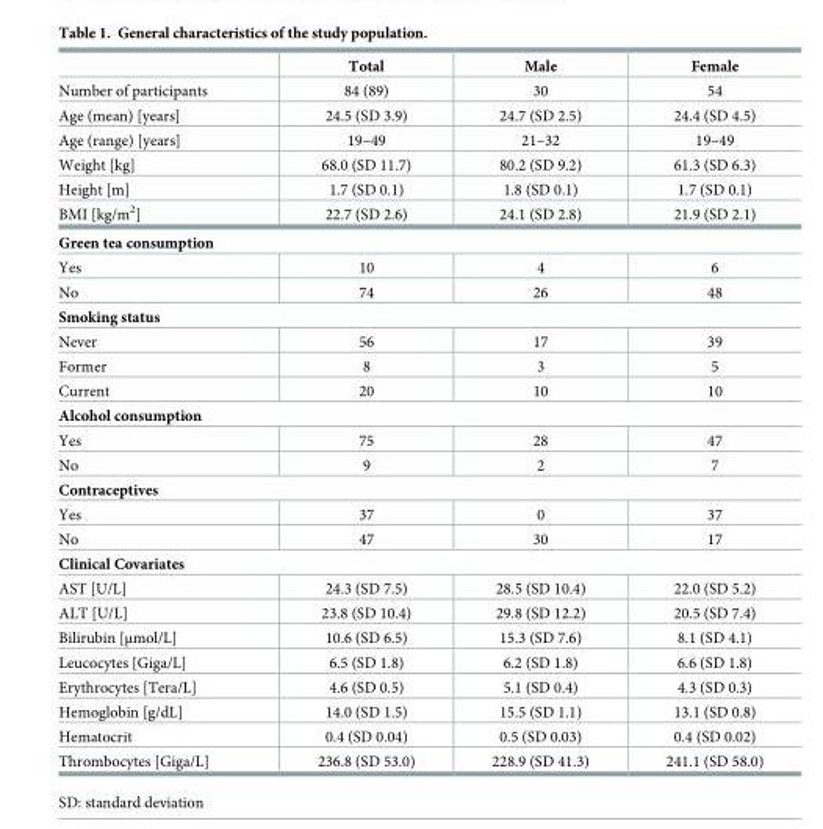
<table><thead><tr><td></td><td>Total</td><td>Male</td><td>Female</td></tr></thead><tbody><tr><td>Number of participants</td><td>84 (89)</td><td>30</td><td>54</td></tr><tr><td>Age (mean) [years]</td><td>24.5 (SD 3.9)</td><td>24.7 (SD 2.5)</td><td>24.4 (SD 4.5)</td></tr><tr><td>Age (range) [years]</td><td>19–49</td><td>21–32</td><td>19–49</td></tr><tr><td>Weight [kg]</td><td>68.0 (SD 11.7)</td><td>80.2 (SD 9.2)</td><td>61.3 (SD 6.3)</td></tr><tr><td>Height [m]</td><td>1.7 (SD 0.1)</td><td>1.8 (SD 0.1)</td><td>1.7 (SD 0.1)</td></tr><tr><td>BMI [kg/m<sup>2</sup>]</td><td>22.7 (SD 2.6)</td><td>24.1 (SD 2.8)</td><td>21.9 (SD 2.1)</td></tr><tr><td colspan="4">Green tea consumption</td></tr><tr><td>Yes</td><td>10</td><td>4</td><td>6</td></tr><tr><td>No</td><td>74</td><td>26</td><td>48</td></tr><tr><td colspan="4">Smoking status</td></tr><tr><td>Never</td><td>56</td><td>17</td><td>39</td></tr><tr><td>Former</td><td>8</td><td>3</td><td>5</td></tr><tr><td>Current</td><td>20</td><td>10</td><td>10</td></tr><tr><td colspan="4">Alcohol consumption</td></tr><tr><td>Yes</td><td>75</td><td>28</td><td>47</td></tr><tr><td>No</td><td>9</td><td>2</td><td>7</td></tr><tr><td colspan="4">Contraceptives</td></tr><tr><td>Yes</td><td>37</td><td>0</td><td>37</td></tr><tr><td>No</td><td>47</td><td>30</td><td>17</td></tr><tr><td colspan="4">Clinical Covariates</td></tr><tr><td>AST [U/L]</td><td>24.3 (SD 7.5)</td><td>28.5 (SD 10.4)</td><td>22.0 (SD 5.2)</td></tr><tr><td>ALT [U/L]</td><td>23.8 (SD 10.4)</td><td>29.8 (SD 12.2)</td><td>20.5 (SD 7.4)</td></tr><tr><td>Bilirubin [μmol/L]</td><td>10.6 (SD 6.5)</td><td>15.3 (SD 7.6)</td><td>8.1 (SD 4.1)</td></tr><tr><td>Leucocytes [Giga/L]</td><td>6.5 (SD 1.8)</td><td>6.2 (SD 1.8)</td><td>6.6 (SD 1.8)</td></tr><tr><td>Erythrocytes [Tera/L]</td><td>4.6 (SD 0.5)</td><td>5.1 (SD 0.4)</td><td>4.3 (SD 0.3)</td></tr><tr><td>Hemoglobin [g/dL]</td><td>14.0 (SD 1.5)</td><td>15.5 (SD 1.1)</td><td>13.1 (SD 0.8)</td></tr><tr><td>Hematocrit</td><td>0.4 (SD 0.04)</td><td>0.5 (SD 0.03)</td><td>0.4 (SD 0.02)</td></tr><tr><td>Thrombocytes [Giga/L]</td><td>236.8 (SD 53.0)</td><td>228.9 (SD 41.3)</td><td>241.1 (SD 58.0)</td></tr></tbody></table>